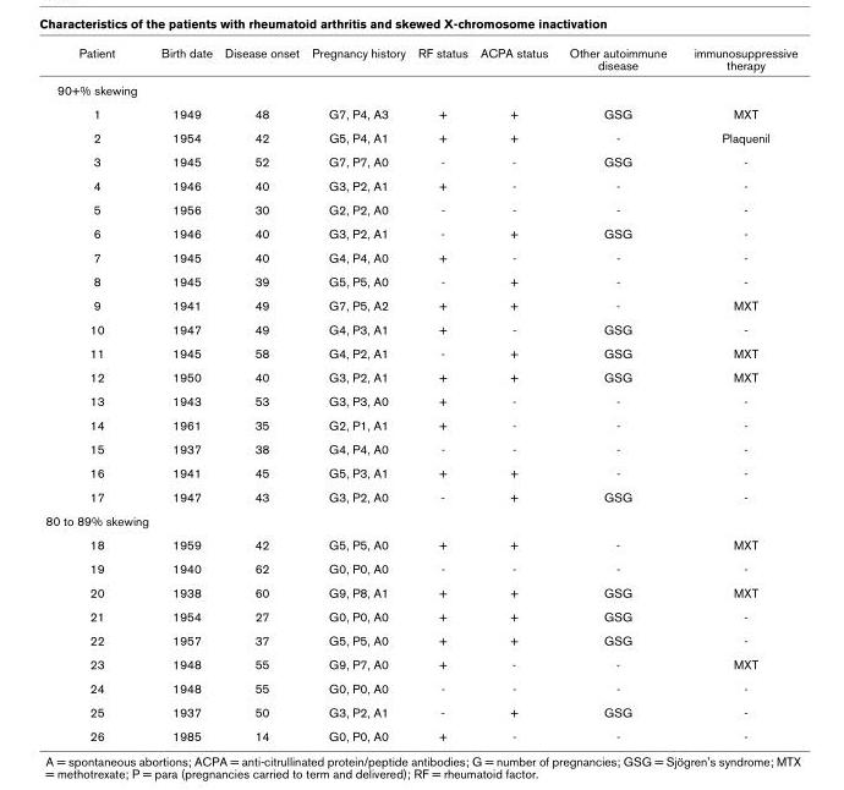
<table><thead><tr><td>Patient</td><td>Birth date</td><td>Disease onset</td><td>Pregnancy history</td><td>RF status</td><td>ACPA status</td><td>Other autoimmune disease</td><td>immunosuppressive therapy</td></tr></thead><tbody><tr><td colspan="8">90+% skewing</td></tr><tr><td>1</td><td>1949</td><td>48</td><td>G7, P4, A3</td><td>+</td><td>+</td><td>GSG</td><td>MXT</td></tr><tr><td>2</td><td>1954</td><td>42</td><td>G5, P4, A1</td><td>+</td><td>+</td><td>-</td><td>Plaquenil</td></tr><tr><td>3</td><td>1945</td><td>52</td><td>G7, P7, A0</td><td>-</td><td>-</td><td>GSG</td><td>-</td></tr><tr><td>4</td><td>1946</td><td>40</td><td>G3, P2, A1</td><td>+</td><td>-</td><td>-</td><td>-</td></tr><tr><td>5</td><td>1956</td><td>30</td><td>G2, P2, A0</td><td>-</td><td>-</td><td>-</td><td>-</td></tr><tr><td>6</td><td>1946</td><td>40</td><td>G3, P2, A1</td><td>-</td><td>+</td><td>GSG</td><td>-</td></tr><tr><td>7</td><td>1945</td><td>40</td><td>G4, P4, A0</td><td>+</td><td>-</td><td>-</td><td>-</td></tr><tr><td>8</td><td>1945</td><td>39</td><td>G5, P5, A0</td><td>-</td><td>+</td><td>-</td><td>-</td></tr><tr><td>9</td><td>1941</td><td>49</td><td>G7, P5, A2</td><td>+</td><td>+</td><td>-</td><td>MXT</td></tr><tr><td>10</td><td>1947</td><td>49</td><td>G4, P3, A1</td><td>+</td><td>-</td><td>GSG</td><td>-</td></tr><tr><td>11</td><td>1945</td><td>58</td><td>G4, P2, A1</td><td>-</td><td>+</td><td>GSG</td><td>MXT</td></tr><tr><td>12</td><td>1950</td><td>40</td><td>G3, P2, A1</td><td>+</td><td>+</td><td>GSG</td><td>MXT</td></tr><tr><td>13</td><td>1943</td><td>53</td><td>G3, P3, A0</td><td>+</td><td>-</td><td>-</td><td>-</td></tr><tr><td>14</td><td>1961</td><td>35</td><td>G2, P1, A1</td><td>+</td><td>-</td><td>-</td><td>-</td></tr><tr><td>15</td><td>1937</td><td>38</td><td>G4, P4, A0</td><td>-</td><td>-</td><td>-</td><td>-</td></tr><tr><td>16</td><td>1941</td><td>45</td><td>G5, P3, A1</td><td>+</td><td>+</td><td>-</td><td>-</td></tr><tr><td>17</td><td>1947</td><td>43</td><td>G3, P2, A0</td><td>-</td><td>+</td><td>GSG</td><td>-</td></tr><tr><td colspan="8">80 to 89% skewing</td></tr><tr><td>18</td><td>1959</td><td>42</td><td>G5, P5, A0</td><td>+</td><td>+</td><td>-</td><td>MXT</td></tr><tr><td>19</td><td>1940</td><td>62</td><td>G0, P0, A0</td><td>-</td><td>-</td><td>-</td><td>-</td></tr><tr><td>20</td><td>1938</td><td>60</td><td>G9, P8, A1</td><td>+</td><td>+</td><td>GSG</td><td>MXT</td></tr><tr><td>21</td><td>1954</td><td>27</td><td>G0, P0, A0</td><td>+</td><td>+</td><td>GSG</td><td>-</td></tr><tr><td>22</td><td>1957</td><td>37</td><td>G5, P5, A0</td><td>+</td><td>+</td><td>GSG</td><td>-</td></tr><tr><td>23</td><td>1948</td><td>55</td><td>G9, P7, A0</td><td>+</td><td>-</td><td>-</td><td>MXT</td></tr><tr><td>24</td><td>1948</td><td>55</td><td>G0, P0, A0</td><td>-</td><td>-</td><td>-</td><td>-</td></tr><tr><td>25</td><td>1937</td><td>50</td><td>G3, P2, A1</td><td>-</td><td>+</td><td>GSG</td><td>-</td></tr><tr><td>26</td><td>1985</td><td>14</td><td>G0, P0, A0</td><td>+</td><td>-</td><td>-</td><td>-</td></tr></tbody></table>